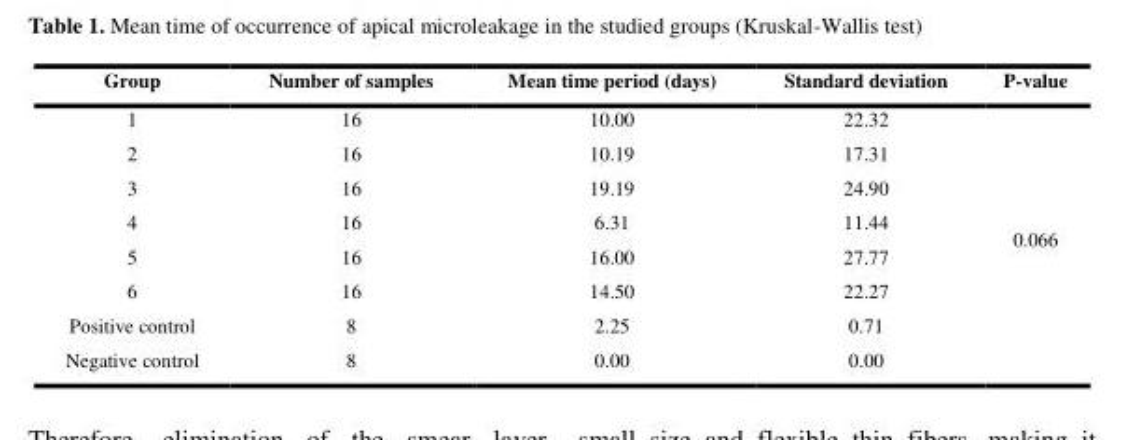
<table><thead><tr><td>Group</td><td>Number of samples</td><td>Mean time period (days)</td><td>Standard deviation</td><td>P-value</td></tr></thead><tbody><tr><td>1</td><td>16</td><td>10.00</td><td>22.32</td><td rowspan="8">0.066</td></tr><tr><td>2</td><td>16</td><td>10.19</td><td>17.31</td></tr><tr><td>3</td><td>16</td><td>19.19</td><td>24.90</td></tr><tr><td>4</td><td>16</td><td>6.31</td><td>11.44</td></tr><tr><td>5</td><td>16</td><td>16.00</td><td>27.77</td></tr><tr><td>6</td><td>16</td><td>14.50</td><td>22.27</td></tr><tr><td>Positive control</td><td>8</td><td>2.25</td><td>0.71</td></tr><tr><td>Negative control</td><td>8</td><td>0.00</td><td>0.00</td></tr></tbody></table>